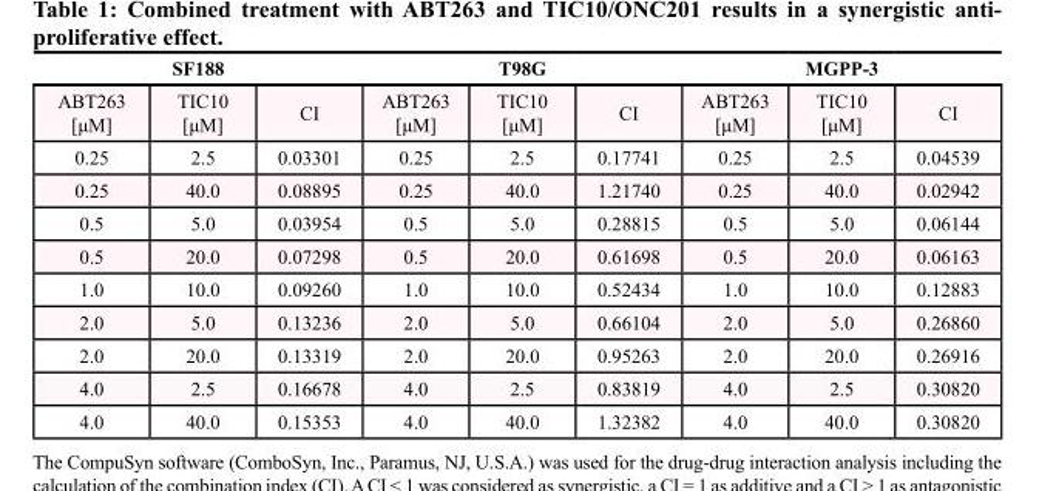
<table><thead><tr><td colspan="3">SF188</td><td colspan="3">T98G</td><td colspan="3">MGPP-3</td></tr><tr><td>ABT263 [μM]</td><td>TIC10 [μM]</td><td>CI</td><td>ABT263 [μM]</td><td>TIC10 [μM]</td><td>CI</td><td>ABT263 [μM]</td><td>TIC10 [μM]</td><td>CI</td></tr></thead><tbody><tr><td>0.25</td><td>2.5</td><td>0.03301</td><td>0.25</td><td>2.5</td><td>0.17741</td><td>0.25</td><td>2.5</td><td>0.04539</td></tr><tr><td>0.25</td><td>40.0</td><td>0.08895</td><td>0.25</td><td>40.0</td><td>1.21740</td><td>0.25</td><td>40.0</td><td>0.02942</td></tr><tr><td>0.5</td><td>5.0</td><td>0.03954</td><td>0.5</td><td>5.0</td><td>0.28815</td><td>0.5</td><td>5.0</td><td>0.06144</td></tr><tr><td>0.5</td><td>20.0</td><td>0.07298</td><td>0.5</td><td>20.0</td><td>0.61698</td><td>0.5</td><td>20.0</td><td>0.06163</td></tr><tr><td>1.0</td><td>10.0</td><td>0.09260</td><td>1.0</td><td>10.0</td><td>0.52434</td><td>1.0</td><td>10.0</td><td>0.12883</td></tr><tr><td>2.0</td><td>5.0</td><td>0.13236</td><td>2.0</td><td>5.0</td><td>0.66104</td><td>2.0</td><td>5.0</td><td>0.26860</td></tr><tr><td>2.0</td><td>20.0</td><td>0.13319</td><td>2.0</td><td>20.0</td><td>0.95263</td><td>2.0</td><td>20.0</td><td>0.26916</td></tr><tr><td>4.0</td><td>2.5</td><td>0.16678</td><td>4.0</td><td>2.5</td><td>0.83819</td><td>4.0</td><td>2.5</td><td>0.30820</td></tr><tr><td>4.0</td><td>40.0</td><td>0.15353</td><td>4.0</td><td>40.0</td><td>1.32382</td><td>4.0</td><td>40.0</td><td>0.30820</td></tr></tbody></table>